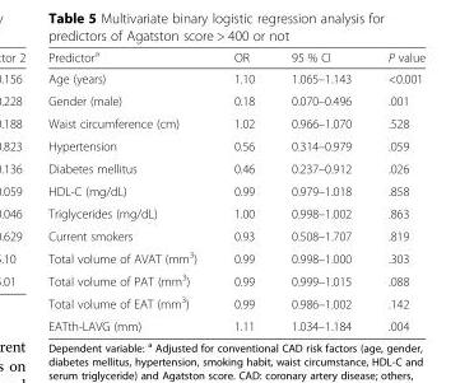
<table><thead><tr><td>Predictor<sup>a</sup></td><td>OR</td><td>95 % CI</td><td>P value</td></tr></thead><tbody><tr><td>Age (years)</td><td>1.10</td><td>1.065–1.143</td><td>&lt;0.001</td></tr><tr><td>Gender (male)</td><td>0.18</td><td>0.070–0.496</td><td>.001</td></tr><tr><td>Waist circumference (cm)</td><td>1.02</td><td>0.966–1.070</td><td>.528</td></tr><tr><td>Hypertension</td><td>0.56</td><td>0.314–0.979</td><td>.059</td></tr><tr><td>Diabetes mellitus</td><td>0.46</td><td>0.237–0.912</td><td>.026</td></tr><tr><td>HDL-C (mg/dL)</td><td>0.99</td><td>0.979–1.018</td><td>.858</td></tr><tr><td>Triglycerides (mg/dL)</td><td>1.00</td><td>0.998–1.002</td><td>.863</td></tr><tr><td>Current smokers</td><td>0.93</td><td>0.508–1.707</td><td>.819</td></tr><tr><td>Total volume of AVAT (mm<sup>3</sup>)</td><td>0.99</td><td>0.998–1.000</td><td>.303</td></tr><tr><td>Total volume of PAT (mm<sup>3</sup>)</td><td>0.99</td><td>0.999–1.015</td><td>.088</td></tr><tr><td>Total volume of EAT (mm<sup>3</sup>)</td><td>0.99</td><td>0.986–1.002</td><td>.142</td></tr><tr><td>EATth-LAVG (mm)</td><td>1.11</td><td>1.034–1.184</td><td>.004</td></tr></tbody></table>